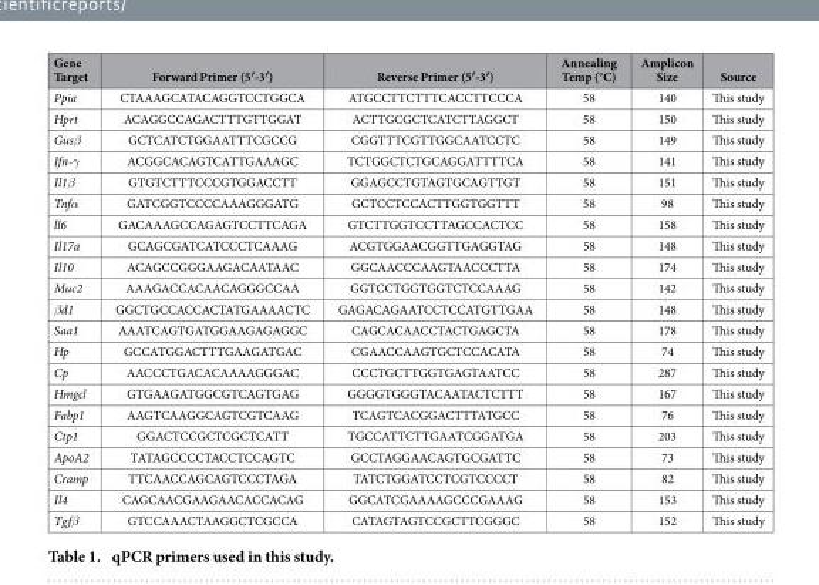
<table><thead><tr><td>Gene Target</td><td>Forward Primer (5′-3′)</td><td>Reverse Primer (5′-3′)</td><td>Annealing Temp (°C)</td><td>Amplicon Size</td><td>Source</td></tr></thead><tbody><tr><td>Ppia</td><td>CTAAAGCATACAGGTCCTGGCA</td><td>ATGCCTTCTTTCACCTTCCCA</td><td>58</td><td>140</td><td>This study</td></tr><tr><td>Hprt</td><td>ACAGGCCAGACTTTGTTGGAT</td><td>ACTTGCGCTCATCTTAGGCT</td><td>58</td><td>150</td><td>This study</td></tr><tr><td>Gusβ</td><td>GCTCATCTGGAATTTCGCCG</td><td>CGGTTTCGTTGGCAATCCTC</td><td>58</td><td>149</td><td>This study</td></tr><tr><td>Ifn-γ</td><td>ACGGCACAGTCATTGAAAGC</td><td>TCTGGCTCTGCAGGATTTTCA</td><td>58</td><td>141</td><td>This study</td></tr><tr><td>Il1β</td><td>GTGTCTTTCCCGTGGACCTT</td><td>GGAGCCTGTAGTGCAGTTGT</td><td>58</td><td>151</td><td>This study</td></tr><tr><td>Tnfα</td><td>GATCGGTCCCCAAAGGGATG</td><td>GCTCCTCCACTTGGTGGTTT</td><td>58</td><td>98</td><td>This study</td></tr><tr><td>ll6</td><td>GACAAAGCCAGAGTCCTTCAGA</td><td>GTCTTGGTCCTTAGCCACTCC</td><td>58</td><td>158</td><td>This study</td></tr><tr><td>Il17a</td><td>GCAGCGATCATCCCTCAAAG</td><td>ACGTGGAACGGTTGAGGTAG</td><td>58</td><td>148</td><td>This study</td></tr><tr><td>Il10</td><td>ACAGCCGGGAAGACAATAAC</td><td>GGCAACCCAAGTAACCCTTA</td><td>58</td><td>174</td><td>This study</td></tr><tr><td>Muc2</td><td>AAAGACCACAACAGGGCCAA</td><td>GGTCCTGGTGGTCTCCAAAG</td><td>58</td><td>142</td><td>This study</td></tr><tr><td>βd1</td><td>GGCTGCCACCACTATGAAAACTC</td><td>GAGACAGAATCCTCCATGTTGAA</td><td>58</td><td>148</td><td>This study</td></tr><tr><td>Saa1</td><td>AAATCAGTGATGGAAGAGAGGC</td><td>CAGCACAACCTACTGAGCTA</td><td>58</td><td>178</td><td>This study</td></tr><tr><td>Hp</td><td>GCCATGGACTTTGAAGATGAC</td><td>CGAACCAAGTGCTCCACATA</td><td>58</td><td>74</td><td>This study</td></tr><tr><td>Cp</td><td>AACCCTGACACAAAAGGGAC</td><td>CCCTGCTTGGTGAGTAATCC</td><td>58</td><td>287</td><td>This study</td></tr><tr><td>Hmgcl</td><td>GTGAAGATGGCGTCAGTGAG</td><td>GGGGTGGGTACAATACTCTTT</td><td>58</td><td>167</td><td>This study</td></tr><tr><td>Fabp1</td><td>AAGTCAAGGCAGTCGTCAAG</td><td>TCAGTCACGGACTTTATGCC</td><td>58</td><td>76</td><td>This study</td></tr><tr><td>Ctp1</td><td>GGACTCCGCTCGCTCATT</td><td>TGCCATTCTTGAATCGGATGA</td><td>58</td><td>203</td><td>This study</td></tr><tr><td>ApoA2</td><td>TATAGCCCCTACCTCCAGTC</td><td>GCCTAGGAACAGTGCGATTC</td><td>58</td><td>73</td><td>This study</td></tr><tr><td>Cramp</td><td>TTCAACCAGCAGTCCCTAGA</td><td>TATCTGGATCCTCGTCCCCT</td><td>58</td><td>82</td><td>This study</td></tr><tr><td>Il4</td><td>CAGCAACGAAGAACACCACAG</td><td>GGCATCGAAAAGCCCGAAAG</td><td>58</td><td>153</td><td>This study</td></tr><tr><td>Tgfβ</td><td>GTCCAAACTAAGGCTCGCCA</td><td>CATAGTAGTCCGCTTCGGGC</td><td>58</td><td>152</td><td>This study</td></tr></tbody></table>